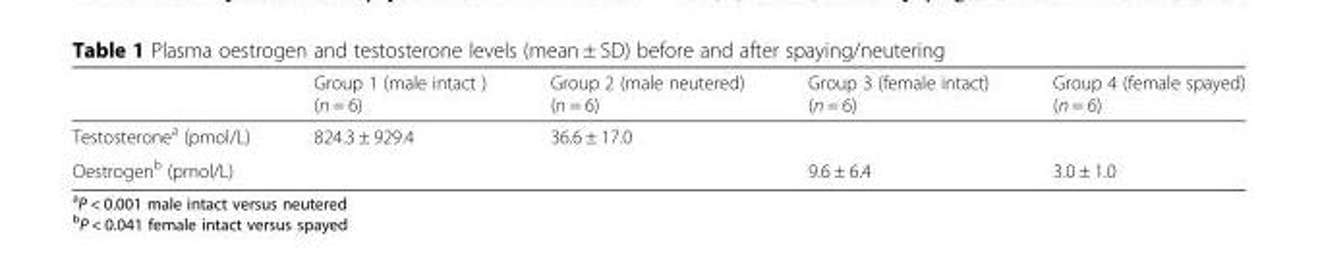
<table><thead><tr><td></td><td>Group 1 (male intact ) (n = 6)</td><td>Group 2 (male neutered) (n = 6)</td><td>Group 3 (female intact) (n = 6)</td><td>Group 4 (female spayed) (n = 6)</td></tr></thead><tbody><tr><td>Testosterone<sup>a</sup> (pmol/L)</td><td>824.3 ± 929.4</td><td>36.6 ± 17.0</td><td></td><td></td></tr><tr><td>Oestrogen<sup>b</sup> (pmol/L)</td><td></td><td></td><td>9.6 ± 6.4</td><td>3.0 ± 1.0</td></tr></tbody></table>